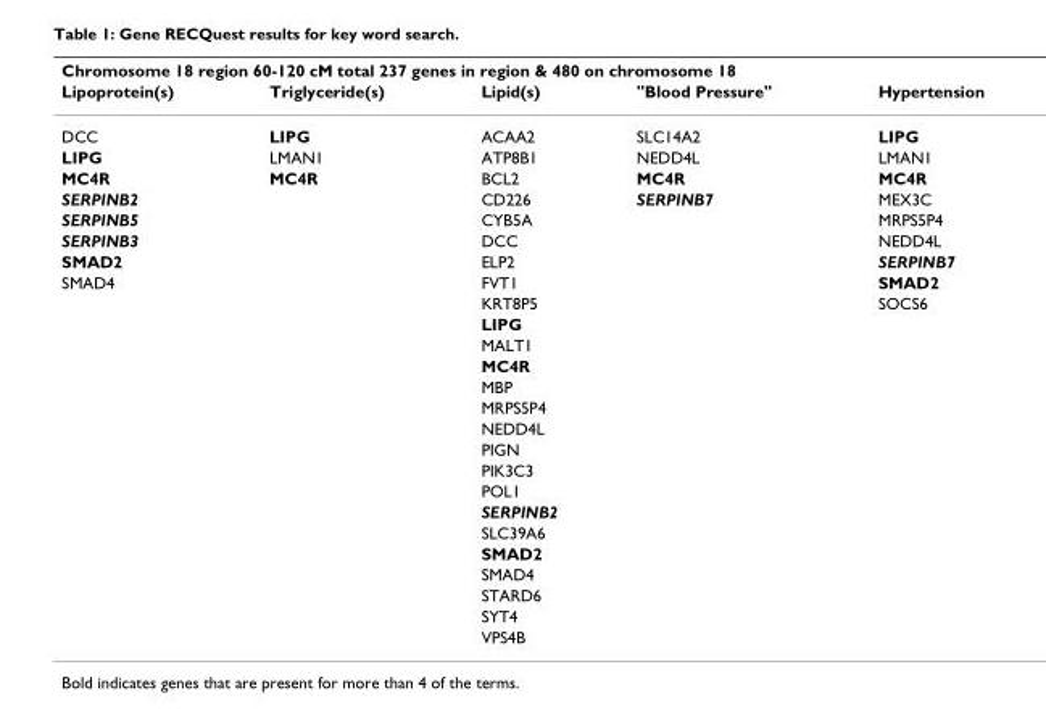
<table><thead><tr><td colspan="5">Chromosome 18 region 60-120 cM total 237 genes in region &amp; 480 on chromosome 18</td></tr><tr><td>Lipoprotein(s)</td><td>Triglyceride(s)</td><td>Lipid(s)</td><td>&quot;Blood Pressure&quot;</td><td>Hypertension</td></tr></thead><tbody><tr><td>DCC</td><td>LIPG</td><td>ACAA2</td><td>SLC14A2</td><td>LIPG</td></tr><tr><td>LIPG</td><td>LMAN1</td><td>ATP8B1</td><td>NEDD4L</td><td>LMAN1</td></tr><tr><td>MC4R</td><td>MC4R</td><td>BCL2</td><td>MC4R</td><td>MC4R</td></tr><tr><td>SERPINB2</td><td></td><td>CD226</td><td>SERPINB7</td><td>MEX3C</td></tr><tr><td>SERPINB5</td><td></td><td>CYB5A</td><td></td><td>MRPS5P4</td></tr><tr><td>SERPINB3</td><td></td><td>DCC</td><td></td><td>NEDD4L</td></tr><tr><td>SMAD2</td><td></td><td>ELP2</td><td></td><td>SERPINB7</td></tr><tr><td rowspan="18">SMAD4</td><td></td><td>FVT1</td><td></td><td>SMAD2</td></tr><tr><td></td><td>KRT8P5</td><td></td><td>SOCS6</td></tr><tr><td></td><td>LIPG</td><td></td><td></td></tr><tr><td></td><td>MALT1</td><td></td><td></td></tr><tr><td></td><td>MC4R</td><td></td><td></td></tr><tr><td></td><td>MBP</td><td></td><td></td></tr><tr><td></td><td>MRPS5P4</td><td></td><td></td></tr><tr><td></td><td>NEDD4L</td><td></td><td></td></tr><tr><td></td><td>PIGN</td><td></td><td></td></tr><tr><td></td><td>PIK3C3</td><td></td><td></td></tr><tr><td></td><td>POL1</td><td></td><td></td></tr><tr><td></td><td>SERPINB2</td><td></td><td></td></tr><tr><td></td><td>SLC39A6</td><td></td><td></td></tr><tr><td></td><td>SMAD2</td><td></td><td></td></tr><tr><td></td><td>SMAD4</td><td></td><td></td></tr><tr><td></td><td>STARD6</td><td></td><td></td></tr><tr><td></td><td>SYT4</td><td></td><td></td></tr><tr><td></td><td>VPS4B</td><td></td><td></td></tr></tbody></table>